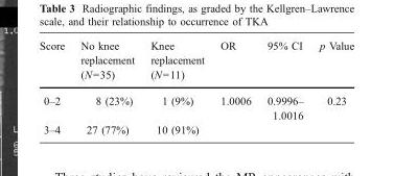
<table><thead><tr><td>Score</td><td>No knee replacement (N=35)</td><td>Knee replacement (N=11)</td><td>OR</td><td>95% CI</td><td>p Value</td></tr></thead><tbody><tr><td>0–2</td><td>8 (23%)</td><td>1 (9%)</td><td rowspan="2">1.0006</td><td>0.9996– 1.0016</td><td rowspan="2">0.23</td></tr><tr><td>3–4</td><td>27 (77%)</td><td>10 (91%)</td><td></td></tr></tbody></table>